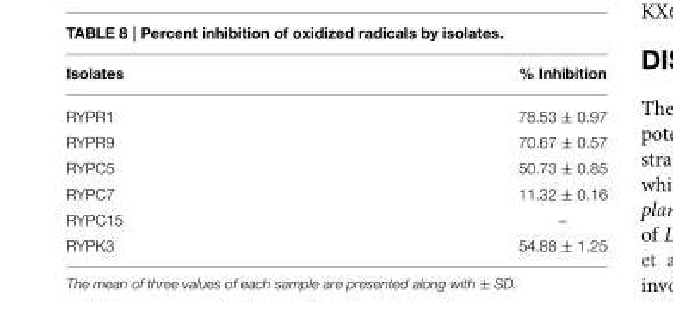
<table><thead><tr><td>Isolates</td><td>% Inhibition</td></tr></thead><tbody><tr><td>RYPR1</td><td>78.53 ± 0.97</td></tr><tr><td>RYPR9</td><td>70.67 ± 0.57</td></tr><tr><td>RYPC5</td><td>50.73 ± 0.85</td></tr><tr><td>RYPC7</td><td>11.32 ± 0.16</td></tr><tr><td>RYPC15</td><td>–</td></tr><tr><td>RYPK3</td><td>54.88 ± 1.25</td></tr></tbody></table>